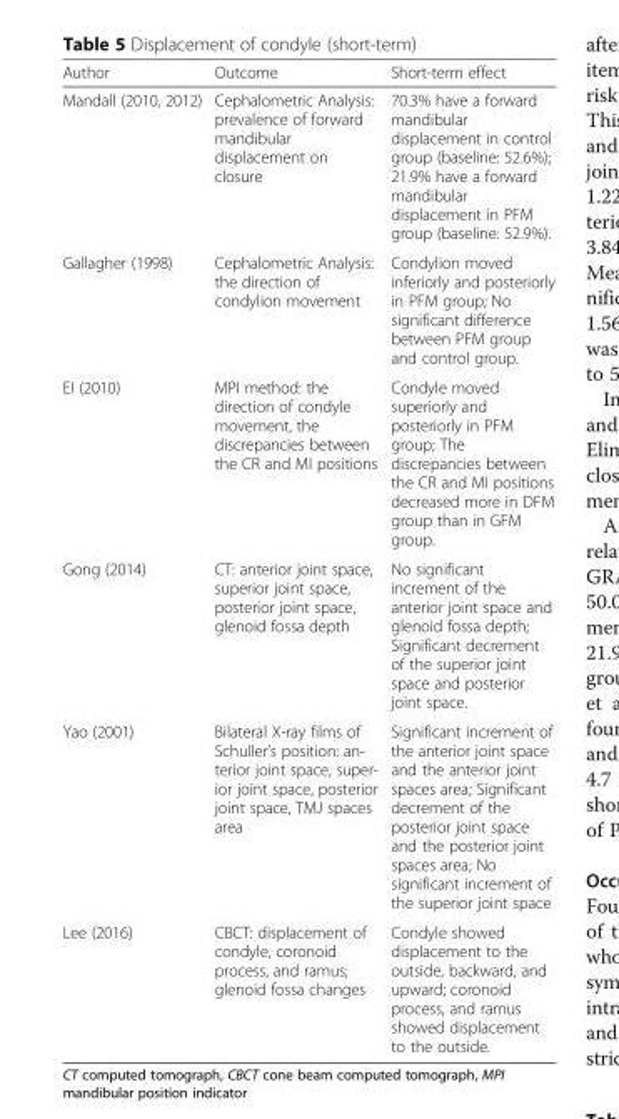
<table><thead><tr><td>Author</td><td>Outcome</td><td>Short-term effect</td></tr></thead><tbody><tr><td>Mandall (2010, 2012)</td><td>Cephalometric Analysis: prevalence of forward mandibular displacement on closure</td><td>70.3% have a forward mandibular displacement in control group (baseline: 52.6%); 21.9% have a forward mandibular displacement in PFM group (baseline: 52.9%).</td></tr><tr><td>Gallagher (1998)</td><td>Cephalometric Analysis: the direction of condylion movement</td><td>Condylion moved inferiorly and posteriorly in PFM group; No significant difference between PFM group and control group.</td></tr><tr><td>EI (2010)</td><td>MPI method: the direction of condyle movement, the discrepancies between the CR and MI positions</td><td>Condyle moved superiorly and posteriorly in PFM group; The discrepancies between the CR and MI positions decreased more in DFM group than in GFM group.</td></tr><tr><td>Gong (2014)</td><td>CT: anterior joint space, superior joint space, posterior joint space, glenoid fossa depth</td><td>No significant increment of the anterior joint space and glenoid fossa depth; Significant decrement of the superior joint space and posterior joint space.</td></tr><tr><td>Yao (2001)</td><td>Bilateral X-ray films of Schuller’s position: an- terior joint space, super- ior joint space, posterior joint space, TMJ spaces area</td><td>Significant increment of the anterior joint space and the anterior joint spaces area; Significant decrement of the posterior joint space and the posterior joint spaces area; No significant increment of the superior joint space</td></tr><tr><td>Lee (2016)</td><td>CBCT: displacement of condyle, coronoid process, and ramus; glenoid fossa changes</td><td>Condyle showed displacement to the outside, backward, and upward; coronoid process, and ramus showed displacement to the outside.</td></tr></tbody></table>